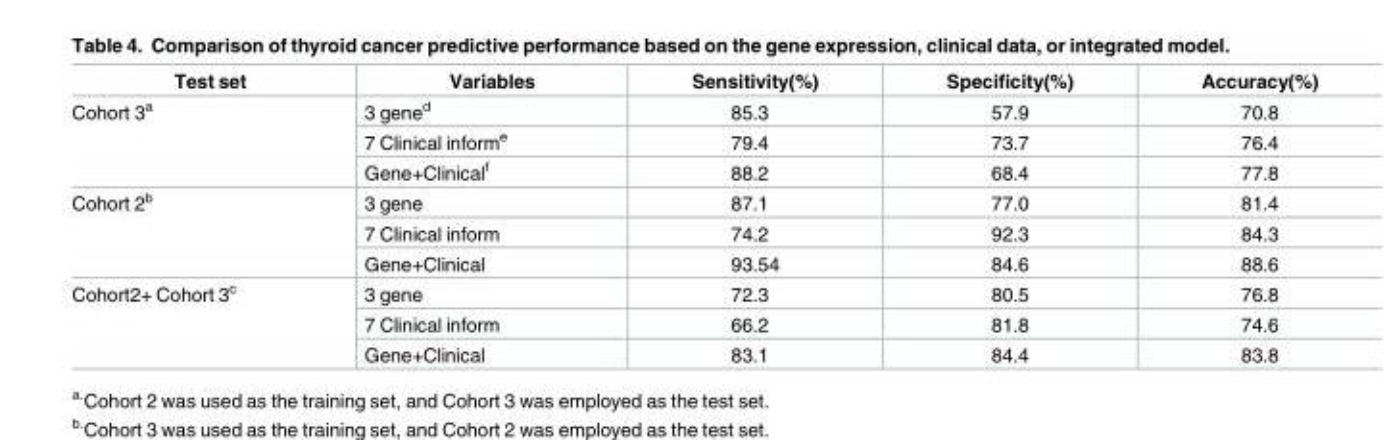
<table><thead><tr><td>Test set</td><td>Variables</td><td>Sensitivity(%)</td><td>Specificity(%)</td><td>Accuracy(%)</td></tr></thead><tbody><tr><td rowspan="3">Cohort 3<sup>a</sup></td><td>3 gene<sup>d</sup></td><td>85.3</td><td>57.9</td><td>70.8</td></tr><tr><td>7 Clinical inform<sup>e</sup></td><td>79.4</td><td>73.7</td><td>76.4</td></tr><tr><td>Gene+Clinical<sup>f</sup></td><td>88.2</td><td>68.4</td><td>77.8</td></tr><tr><td rowspan="3">Cohort 2<sup>b</sup></td><td>3 gene</td><td>87.1</td><td>77.0</td><td>81.4</td></tr><tr><td>7 Clinical inform</td><td>74.2</td><td>92.3</td><td>84.3</td></tr><tr><td>Gene+Clinical</td><td>93.54</td><td>84.6</td><td>88.6</td></tr><tr><td rowspan="3">Cohort2+ Cohort 3<sup>c</sup></td><td>3 gene</td><td>72.3</td><td>80.5</td><td>76.8</td></tr><tr><td>7 Clinical inform</td><td>66.2</td><td>81.8</td><td>74.6</td></tr><tr><td>Gene+Clinical</td><td>83.1</td><td>84.4</td><td>83.8</td></tr></tbody></table>